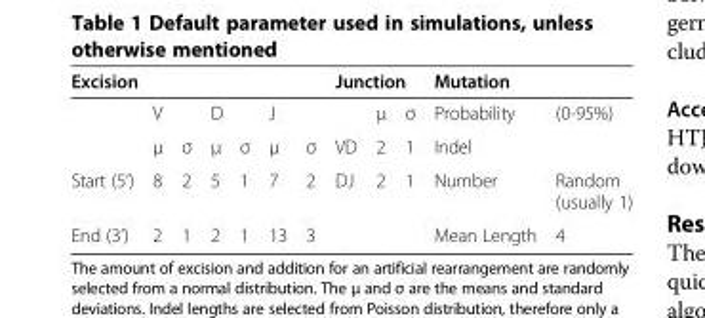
<table><thead><tr><td colspan="7">Excision</td><td colspan="3">Junction</td><td colspan="2">Mutation</td></tr><tr><td rowspan="2"></td><td colspan="2">V</td><td colspan="2">D</td><td colspan="2">J</td><td rowspan="2">VD</td><td rowspan="2">μ 2</td><td rowspan="2">σ 1</td><td>Probability</td><td>(0-95%)</td></tr><tr><td>μ</td><td>σ</td><td>μ</td><td>σ</td><td>μ</td><td>σ</td><td colspan="2">Indel</td></tr></thead><tbody><tr><td>Start (5’)</td><td>8</td><td>2</td><td>5</td><td>1</td><td>7</td><td>2</td><td>DJ</td><td>2</td><td>1</td><td>Number</td><td>Random (usually 1)</td></tr><tr><td>End (3’)</td><td>2</td><td>1</td><td>2</td><td>1</td><td>13</td><td>3</td><td></td><td></td><td></td><td>Mean Length</td><td>4</td></tr></tbody></table>